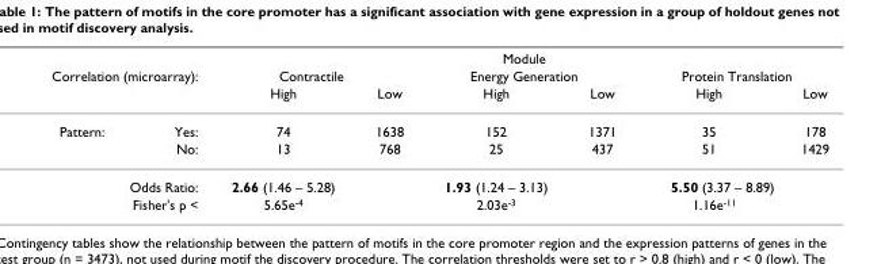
<table><thead><tr><td></td><td></td><td colspan="6">Module</td></tr><tr><td colspan="2">Correlation (microarray):</td><td colspan="2">Contractile</td><td colspan="2">Energy Generation</td><td colspan="2">Protein Translation</td></tr><tr><td></td><td></td><td>High</td><td>Low</td><td>High</td><td>Low</td><td>High</td><td>Low</td></tr></thead><tbody><tr><td rowspan="2">Pattern:</td><td>Yes:</td><td>74</td><td>1638</td><td>152</td><td>1371</td><td>35</td><td>178</td></tr><tr><td>No:</td><td>13</td><td>768</td><td>25</td><td>437</td><td>51</td><td>1429</td></tr><tr><td colspan="2">Odds Ratio:</td><td>2.66 (1.46 – 5.28)</td><td></td><td>1.93 (1.24 – 3.13)</td><td></td><td>5.50 (3.37 – 8.89)</td><td></td></tr><tr><td colspan="2">Fisher&#x27;s p &lt;</td><td colspan="2">5.65e<sup>-4</sup></td><td colspan="2">2.03e<sup>-3</sup></td><td colspan="2">1.16e<sup>-11</sup></td></tr></tbody></table>